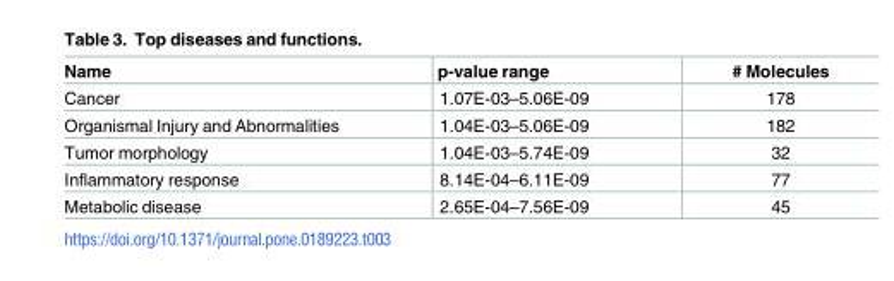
<table><thead><tr><td>Name</td><td>p-value range</td><td># Molecules</td></tr></thead><tbody><tr><td>Cancer</td><td>1.07E-03–5.06E-09</td><td>178</td></tr><tr><td>Organismal Injury and Abnormalities</td><td>1.04E-03–5.06E-09</td><td>182</td></tr><tr><td>Tumor morphology</td><td>1.04E-03–5.74E-09</td><td>32</td></tr><tr><td>Inflammatory response</td><td>8.14E-04–6.11E-09</td><td>77</td></tr><tr><td>Metabolic disease</td><td>2.65E-04–7.56E-09</td><td>45</td></tr></tbody></table>